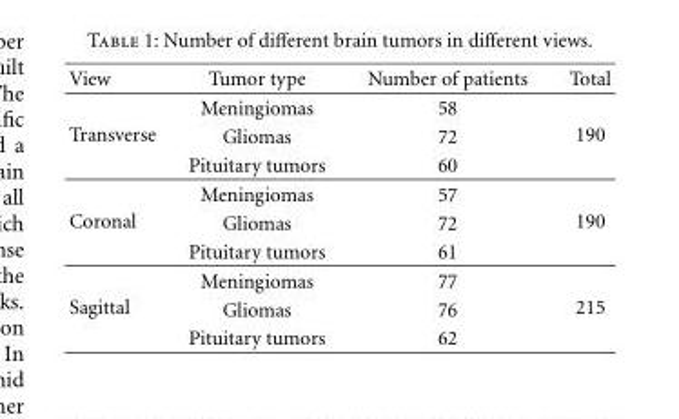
<table><thead><tr><td>View</td><td>Tumor type</td><td>Number of patients</td><td>Total</td></tr></thead><tbody><tr><td rowspan="3">Transverse</td><td>Meningiomas</td><td>58</td><td rowspan="3">190</td></tr><tr><td>Gliomas</td><td>72</td></tr><tr><td>Pituitary tumors</td><td>60</td></tr><tr><td rowspan="3">Coronal</td><td>Meningiomas</td><td>57</td><td rowspan="3">190</td></tr><tr><td>Gliomas</td><td>72</td></tr><tr><td>Pituitary tumors</td><td>61</td></tr><tr><td rowspan="3">Sagittal</td><td>Meningiomas</td><td>77</td><td rowspan="3">215</td></tr><tr><td>Gliomas</td><td>76</td></tr><tr><td>Pituitary tumors</td><td>62</td></tr></tbody></table>